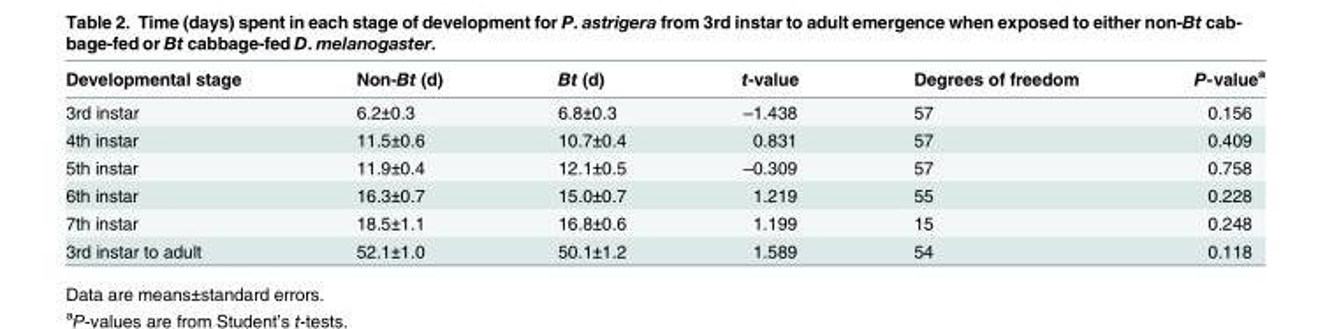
<table><thead><tr><td>Developmental stage</td><td>Non-Bt (d)</td><td>Bt (d)</td><td>t-value</td><td>Degrees of freedom</td><td>P-value<sup>a</sup></td></tr></thead><tbody><tr><td>3rd instar</td><td>6.2±0.3</td><td>6.8±0.3</td><td>–1.438</td><td>57</td><td>0.156</td></tr><tr><td>4th instar</td><td>11.5±0.6</td><td>10.7±0.4</td><td>0.831</td><td>57</td><td>0.409</td></tr><tr><td>5th instar</td><td>11.9±0.4</td><td>12.1±0.5</td><td>–0.309</td><td>57</td><td>0.758</td></tr><tr><td>6th instar</td><td>16.3±0.7</td><td>15.0±0.7</td><td>1.219</td><td>55</td><td>0.228</td></tr><tr><td>7th instar</td><td>18.5±1.1</td><td>16.8±0.6</td><td>1.199</td><td>15</td><td>0.248</td></tr><tr><td>3rd instar to adult</td><td>52.1±1.0</td><td>50.1±1.2</td><td>1.589</td><td>54</td><td>0.118</td></tr></tbody></table>